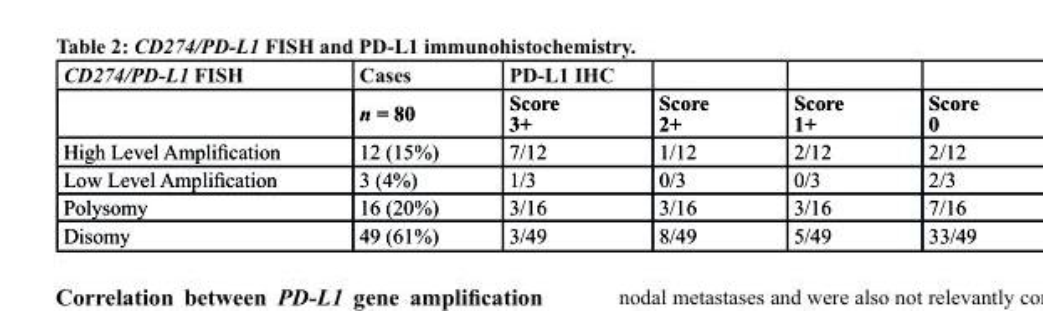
<table><thead><tr><td rowspan="2">CD274/PD-L1 FIsH</td><td rowspan="2">cases n = 80</td><td rowspan="2">Pd-l1 IHc score 3+</td><td rowspan="2">score 2+</td><td rowspan="2">score 1+</td><td rowspan="2">score 0</td></tr><tr></tr></thead><tbody><tr><td>High Level Amplification</td><td>12 (15%)</td><td>7/12</td><td>1/12</td><td>2/12</td><td>2/12</td></tr><tr><td>Low Level Amplification</td><td>3 (4%)</td><td>1/3</td><td>0/3</td><td>0/3</td><td>2/3</td></tr><tr><td>Polysomy</td><td>16 (20%)</td><td>3/16</td><td>3/16</td><td>3/16</td><td>7/16</td></tr><tr><td>Disomy</td><td>49 (61%)</td><td>3/49</td><td>8/49</td><td>5/49</td><td>33/49</td></tr></tbody></table>